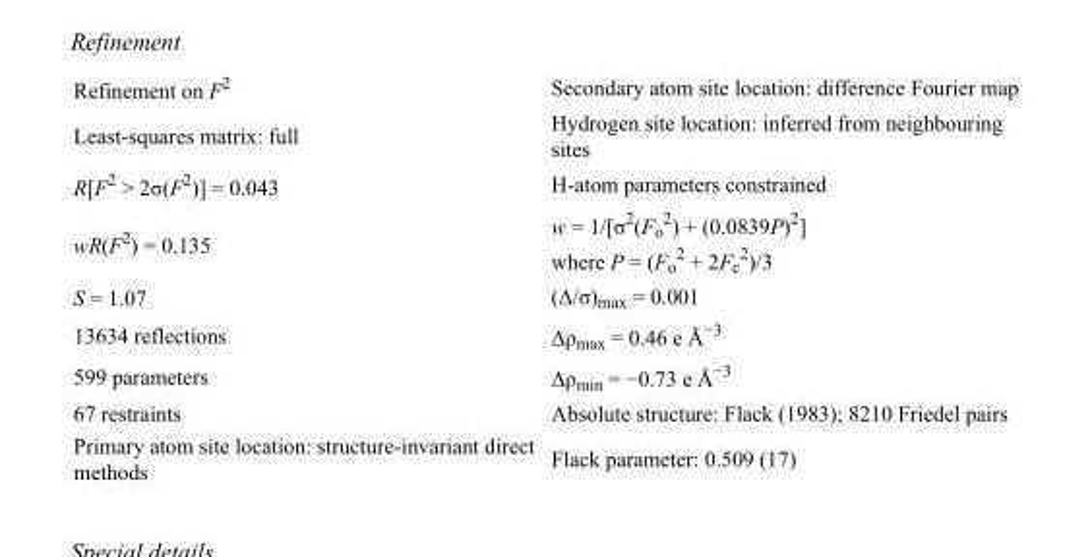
<table><tbody><tr><td>Refinement on F<sup>2</sup></td><td>Secondary atom site location: difference Fourier map</td></tr><tr><td>Least-squares matrix: full</td><td>Hydrogen site location: inferred from neighbouring sites</td></tr><tr><td>R[F<sup>2</sup> &gt; 2σ(F<sup>2</sup>)] = 0.043</td><td>H-atom parameters constrained</td></tr><tr><td>wR(F<sup>2</sup>) = 0.135</td><td>w = 1/[σ<sup>2</sup>(F<sub>o</sub> <sup>2</sup>) + (0.0839P)<sup>2</sup>] where P = (F<sub>o</sub> <sup>2</sup> + 2F<sub>c</sub> <sup>2</sup>)/3</td></tr><tr><td>S = 1.07</td><td>(Δ/σ)<sub>max</sub> = 0.001</td></tr><tr><td>13634 reflections</td><td>Δρ<sub>max</sub> = 0.46 e Å<sup>−3</sup></td></tr><tr><td>599 parameters</td><td>Δρ<sub>min</sub> = −0.73 e Å<sup>−3</sup></td></tr><tr><td>67 restraints</td><td>Absolute structure: Flack (1983); 8210 Friedel pairs</td></tr><tr><td>Primary atom site location: structure-invariant direct methods</td><td>Flack parameter: 0.509 (17)</td></tr></tbody></table>